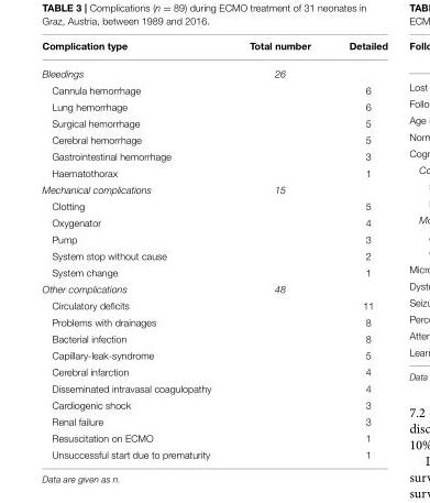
<table><thead><tr><td>Complication type</td><td>Total number</td><td>Detailed</td></tr></thead><tbody><tr><td>Bleedings</td><td>26</td><td></td></tr><tr><td>Cannula hemorrhage</td><td></td><td>6</td></tr><tr><td>Lung hemorrhage</td><td></td><td>6</td></tr><tr><td>Surgical hemorrhage</td><td></td><td>5</td></tr><tr><td>Cerebral hemorrhage</td><td></td><td>5</td></tr><tr><td>Gastrointestinal hemorrhage</td><td></td><td>3</td></tr><tr><td>Haematothorax</td><td></td><td>1</td></tr><tr><td>Mechanical complications</td><td>15</td><td></td></tr><tr><td>Clotting</td><td></td><td>5</td></tr><tr><td>Oxygenator</td><td></td><td>4</td></tr><tr><td>Pump</td><td></td><td>3</td></tr><tr><td>System stop without cause</td><td></td><td>2</td></tr><tr><td>System change</td><td></td><td>1</td></tr><tr><td>Other complications</td><td>48</td><td></td></tr><tr><td>Circulatory deficits</td><td></td><td>11</td></tr><tr><td>Problems with drainages</td><td></td><td>8</td></tr><tr><td>Bacterial infection</td><td></td><td>8</td></tr><tr><td>Capillary-leak-syndrome</td><td></td><td>5</td></tr><tr><td>Cerebral infarction</td><td></td><td>4</td></tr><tr><td>Disseminated intravasal coagulopathy</td><td></td><td>4</td></tr><tr><td>Cardiogenic shock</td><td></td><td>3</td></tr><tr><td>Renal failure</td><td></td><td>3</td></tr><tr><td>Resuscitation on ECMO</td><td></td><td>1</td></tr><tr><td>Unsuccessful start due to prematurity</td><td></td><td>1</td></tr></tbody></table>